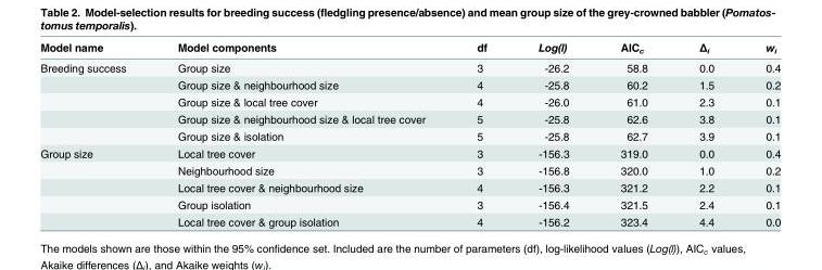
<table><thead><tr><td>Model name</td><td>Model components</td><td>df</td><td>Log(l)</td><td>AIC<sub>c</sub></td><td>Δ<sub>i</sub></td><td>w<sub>i</sub></td></tr></thead><tbody><tr><td rowspan="5">Breeding success</td><td>Group size</td><td>3</td><td>-26.2</td><td>58.8</td><td>0.0</td><td>0.4</td></tr><tr><td>Group size &amp; neighbourhood size</td><td>4</td><td>-25.8</td><td>60.2</td><td>1.5</td><td>0.2</td></tr><tr><td>Group size &amp; local tree cover</td><td>4</td><td>-26.0</td><td>61.0</td><td>2.3</td><td>0.1</td></tr><tr><td>Group size &amp; neighbourhood size &amp; local tree cover</td><td>5</td><td>-25.8</td><td>62.6</td><td>3.8</td><td>0.1</td></tr><tr><td>Group size &amp; isolation</td><td>5</td><td>-25.8</td><td>62.7</td><td>3.9</td><td>0.1</td></tr><tr><td rowspan="5">Group size</td><td>Local tree cover</td><td>3</td><td>-156.3</td><td>319.0</td><td>0.0</td><td>0.4</td></tr><tr><td>Neighbourhood size</td><td>3</td><td>-156.8</td><td>320.0</td><td>1.0</td><td>0.2</td></tr><tr><td>Local tree cover &amp; neighbourhood size</td><td>4</td><td>-156.3</td><td>321.2</td><td>2.2</td><td>0.1</td></tr><tr><td>Group isolation</td><td>3</td><td>-156.4</td><td>321.5</td><td>2.4</td><td>0.1</td></tr><tr><td>Local tree cover &amp; group isolation</td><td>4</td><td>-156.2</td><td>323.4</td><td>4.4</td><td>0.0</td></tr></tbody></table>